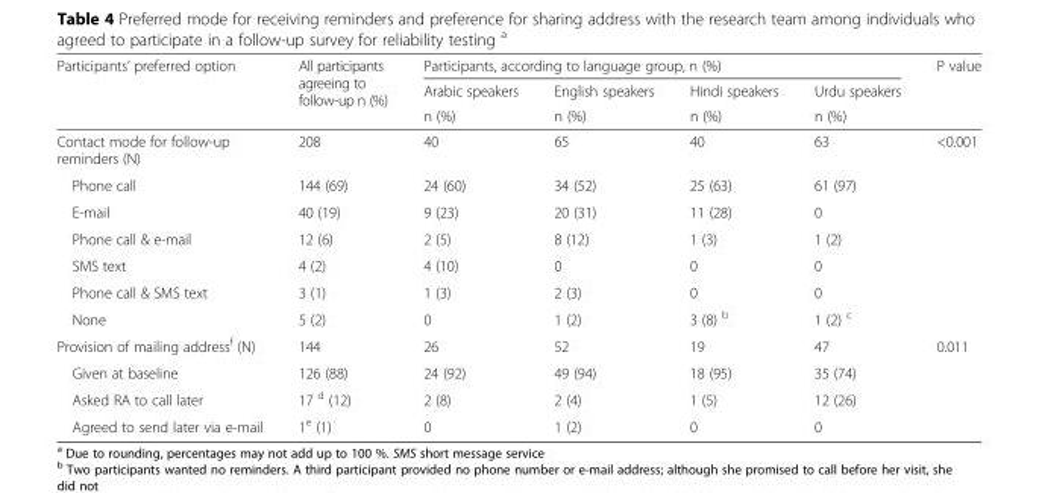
<table><thead><tr><td rowspan="3">Participants’ preferred option</td><td rowspan="3">All participants agreeing to follow-up n (%)</td><td colspan="4">Participants, according to language group, n (%)</td><td rowspan="3">P value</td></tr><tr><td rowspan="2">Arabic speakers n (%)</td><td rowspan="2">English speakers n (%)</td><td rowspan="2">Hindi speakers n (%)</td><td rowspan="2">Urdu speakers n (%)</td></tr><tr></tr></thead><tbody><tr><td>Contact mode for follow-up reminders (N)</td><td>208</td><td>40</td><td>65</td><td>40</td><td>63</td><td>&lt;0.001</td></tr><tr><td>Phone call</td><td>144 (69)</td><td>24 (60)</td><td>34 (52)</td><td>25 (63)</td><td>61 (97)</td><td></td></tr><tr><td>E-mail</td><td>40 (19)</td><td>9 (23)</td><td>20 (31)</td><td>11 (28)</td><td>0</td><td></td></tr><tr><td>Phone call &amp; e-mail</td><td>12 (6)</td><td>2 (5)</td><td>8 (12)</td><td>1 (3)</td><td>1 (2)</td><td></td></tr><tr><td>SMS text</td><td>4 (2)</td><td>4 (10)</td><td>0</td><td>0</td><td>0</td><td></td></tr><tr><td>Phone call &amp; SMS text</td><td>3 (1)</td><td>1 (3)</td><td>2 (3)</td><td>0</td><td>0</td><td></td></tr><tr><td>None</td><td>5 (2)</td><td>0</td><td>1 (2)</td><td>3 (8) <sup>b</sup></td><td>1 (2) <sup>c</sup></td><td></td></tr><tr><td>Provision of mailing address<sup>f</sup> (N)</td><td>144</td><td>26</td><td>52</td><td>19</td><td>47</td><td>0.011</td></tr><tr><td>Given at baseline</td><td>126 (88)</td><td>24 (92)</td><td>49 (94)</td><td>18 (95)</td><td>35 (74)</td><td></td></tr><tr><td>Asked RA to call later</td><td>17 <sup>d</sup> (12)</td><td>2 (8)</td><td>2 (4)</td><td>1 (5)</td><td>12 (26)</td><td></td></tr><tr><td>Agreed to send later via e-mail</td><td>1<sup>e</sup> (1)</td><td>0</td><td>1 (2)</td><td>0</td><td>0</td><td></td></tr></tbody></table>